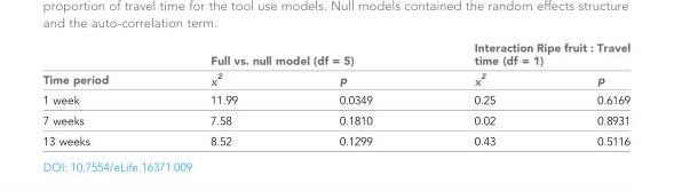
<table><thead><tr><td rowspan="2">Time period</td><td colspan="2">Full vs. null model (df = 5)</td><td colspan="2">Interaction Ripe fruit : Travel time (df = 1)</td></tr><tr><td><sub>X</sub> <sup>2</sup></td><td>p</td><td><sub>X</sub> <sup>2</sup></td><td>p</td></tr></thead><tbody><tr><td>1 week</td><td>11.99</td><td>0.0349</td><td>0.25</td><td>0.6169</td></tr><tr><td>7 weeks</td><td>7.58</td><td>0.1810</td><td>0.02</td><td>0.8931</td></tr><tr><td>13 weeks</td><td>8.52</td><td>0.1299</td><td>0.43</td><td>0.5116</td></tr></tbody></table>